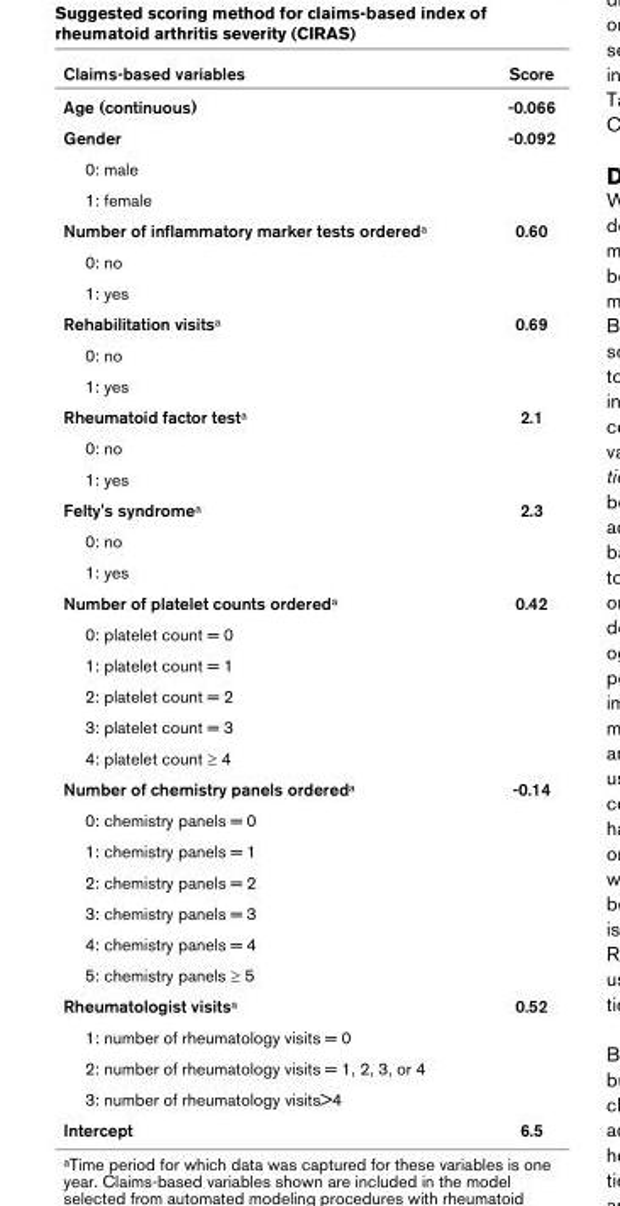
<table><thead><tr><td>Claims-based variables</td><td>Score</td></tr></thead><tbody><tr><td>Age (continuous)</td><td>-0.066</td></tr><tr><td>Gender</td><td>-0.092</td></tr><tr><td colspan="2">0: male</td></tr><tr><td colspan="2">1: female</td></tr><tr><td>Number of inflammatory marker tests ordered<sup>a</sup></td><td>0.60</td></tr><tr><td colspan="2">0: no</td></tr><tr><td colspan="2">1: yes</td></tr><tr><td>Rehabilitation visits<sup>a</sup></td><td>0.69</td></tr><tr><td colspan="2">0: no</td></tr><tr><td colspan="2">1: yes</td></tr><tr><td>Rheumatoid factor test<sup>a</sup></td><td>2.1</td></tr><tr><td colspan="2">0: no</td></tr><tr><td colspan="2">1: yes</td></tr><tr><td>Felty&#x27;s syndrome<sup>a</sup></td><td>2.3</td></tr><tr><td colspan="2">0: no</td></tr><tr><td colspan="2">1: yes</td></tr><tr><td>Number of platelet counts ordered<sup>a</sup></td><td>0.42</td></tr><tr><td colspan="2">0: platelet count = 0</td></tr><tr><td colspan="2">1: platelet count = 1</td></tr><tr><td colspan="2">2: platelet count = 2</td></tr><tr><td colspan="2">3: platelet count = 3</td></tr><tr><td colspan="2">4: platelet count ≥ 4</td></tr><tr><td>Number of chemistry panels ordered<sup>a</sup></td><td>-0.14</td></tr><tr><td colspan="2">0: chemistry panels = 0</td></tr><tr><td colspan="2">1: chemistry panels = 1</td></tr><tr><td colspan="2">2: chemistry panels = 2</td></tr><tr><td colspan="2">3: chemistry panels = 3</td></tr><tr><td colspan="2">4: chemistry panels = 4</td></tr><tr><td colspan="2">5: chemistry panels ≥ 5</td></tr><tr><td>Rheumatologist visits<sup>a</sup></td><td>0.52</td></tr><tr><td colspan="2">1: number of rheumatology visits = 0</td></tr><tr><td colspan="2">2: number of rheumatology visits = 1, 2, 3, or 4</td></tr><tr><td colspan="2">3: number of rheumatology visits&gt;4</td></tr><tr><td>Intercept</td><td>6.5</td></tr></tbody></table>